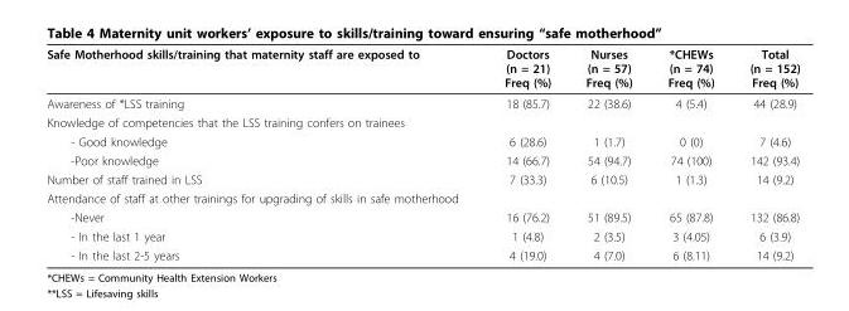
<table><thead><tr><td>Safe Motherhood skills/training that maternity staff are exposed to</td><td>Doctors (n = 21) Freq (%)</td><td>Nurses (n = 57) Freq (%)</td><td>*CHEWs (n = 74) Freq (%)</td><td>Total (n = 152) Freq (%)</td></tr></thead><tbody><tr><td>Awareness of *LSS training</td><td>18 (85.7)</td><td>22 (38.6)</td><td>4 (5.4)</td><td>44 (28.9)</td></tr><tr><td colspan="5">Knowledge of competencies that the LSS training confers on trainees</td></tr><tr><td>- Good knowledge</td><td>6 (28.6)</td><td>1 (1.7)</td><td>0 (0)</td><td>7 (4.6)</td></tr><tr><td>-Poor knowledge</td><td>14 (66.7)</td><td>54 (94.7)</td><td>74 (100)</td><td>142 (93.4)</td></tr><tr><td>Number of staff trained in LSS</td><td>7 (33.3)</td><td>6 (10.5)</td><td>1 (1.3)</td><td>14 (9.2)</td></tr><tr><td colspan="5">Attendance of staff at other trainings for upgrading of skills in safe motherhood</td></tr><tr><td>-Never</td><td>16 (76.2)</td><td>51 (89.5)</td><td>65 (87.8)</td><td>132 (86.8)</td></tr><tr><td>- In the last 1 year</td><td>1 (4.8)</td><td>2 (3.5)</td><td>3 (4.05)</td><td>6 (3.9)</td></tr><tr><td>- In the last 2-5 years</td><td>4 (19.0)</td><td>4 (7.0)</td><td>6 (8.11)</td><td>14 (9.2)</td></tr></tbody></table>